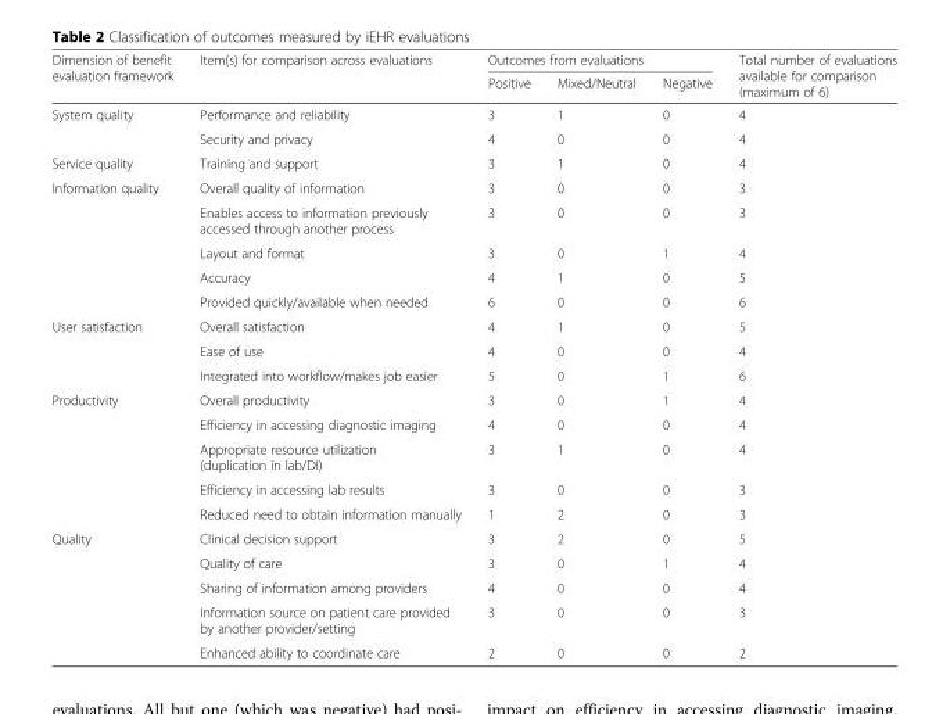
<table><thead><tr><td rowspan="2">Dimension of benefit evaluation framework</td><td rowspan="2">Item(s) for comparison across evaluations</td><td colspan="3">Outcomes from evaluations</td><td rowspan="2">Total number of evaluations available for comparison (maximum of 6)</td></tr><tr><td>Positive</td><td>Mixed/Neutral</td><td>Negative</td></tr></thead><tbody><tr><td rowspan="2">System quality</td><td>Performance and reliability</td><td>3</td><td>1</td><td>0</td><td>4</td></tr><tr><td>Security and privacy</td><td>4</td><td>0</td><td>0</td><td>4</td></tr><tr><td>Service quality</td><td>Training and support</td><td>3</td><td>1</td><td>0</td><td>4</td></tr><tr><td rowspan="5">Information quality</td><td>Overall quality of information</td><td>3</td><td>0</td><td>0</td><td>3</td></tr><tr><td>Enables access to information previously accessed through another process</td><td>3</td><td>0</td><td>0</td><td>3</td></tr><tr><td>Layout and format</td><td>3</td><td>0</td><td>1</td><td>4</td></tr><tr><td>Accuracy</td><td>4</td><td>1</td><td>0</td><td>5</td></tr><tr><td>Provided quickly/available when needed</td><td>6</td><td>0</td><td>0</td><td>6</td></tr><tr><td rowspan="3">User satisfaction</td><td>Overall satisfaction</td><td>4</td><td>1</td><td>0</td><td>5</td></tr><tr><td>Ease of use</td><td>4</td><td>0</td><td>0</td><td>4</td></tr><tr><td>Integrated into workflow/makes job easier</td><td>5</td><td>0</td><td>1</td><td>6</td></tr><tr><td rowspan="5">Productivity</td><td>Overall productivity</td><td>3</td><td>0</td><td>1</td><td>4</td></tr><tr><td>Efficiency in accessing diagnostic imaging</td><td>4</td><td>0</td><td>0</td><td>4</td></tr><tr><td>Appropriate resource utilization (duplication in lab/DI)</td><td>3</td><td>1</td><td>0</td><td>4</td></tr><tr><td>Efficiency in accessing lab results</td><td>3</td><td>0</td><td>0</td><td>3</td></tr><tr><td>Reduced need to obtain information manually</td><td>1</td><td>2</td><td>0</td><td>3</td></tr><tr><td rowspan="5">Quality</td><td>Clinical decision support</td><td>3</td><td>2</td><td>0</td><td>5</td></tr><tr><td>Quality of care</td><td>3</td><td>0</td><td>1</td><td>4</td></tr><tr><td>Sharing of information among providers</td><td>4</td><td>0</td><td>0</td><td>4</td></tr><tr><td>Information source on patient care provided by another provider/setting</td><td>3</td><td>0</td><td>0</td><td>3</td></tr><tr><td>Enhanced ability to coordinate care</td><td>2</td><td>0</td><td>0</td><td>2</td></tr></tbody></table>